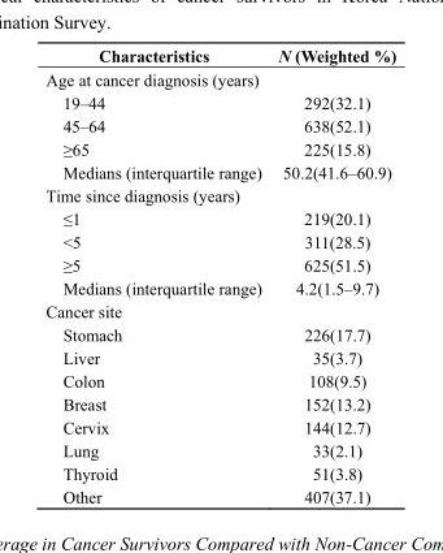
<table><thead><tr><td>Characteristics</td><td>N (Weighted %)</td></tr></thead><tbody><tr><td colspan="2">Age at cancer diagnosis (years)</td></tr><tr><td>19–44</td><td>292(32.1)</td></tr><tr><td>45–64</td><td>638(52.1)</td></tr><tr><td>≥65</td><td>225(15.8)</td></tr><tr><td>Medians (interquartile range)</td><td>50.2(41.6–60.9)</td></tr><tr><td colspan="2">Time since diagnosis (years)</td></tr><tr><td>≤1</td><td>219(20.1)</td></tr><tr><td>&lt;5</td><td>311(28.5)</td></tr><tr><td>≥5</td><td>625(51.5)</td></tr><tr><td>Medians (interquartile range)</td><td>4.2(1.5–9.7)</td></tr><tr><td colspan="2">Cancer site</td></tr><tr><td>Stomach</td><td>226(17.7)</td></tr><tr><td>Liver</td><td>35(3.7)</td></tr><tr><td>Colon</td><td>108(9.5)</td></tr><tr><td>Breast</td><td>152(13.2)</td></tr><tr><td>Cervix</td><td>144(12.7)</td></tr><tr><td>Lung</td><td>33(2.1)</td></tr><tr><td>Thyroid</td><td>51(3.8)</td></tr><tr><td>Other</td><td>407(37.1)</td></tr></tbody></table>